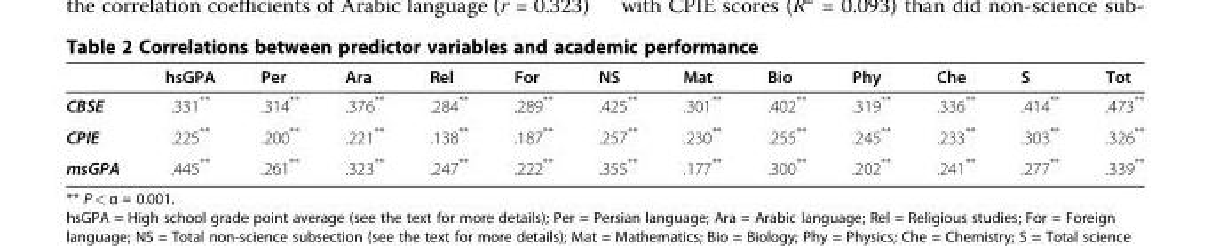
<table><thead><tr><td></td><td>hsGPA</td><td>Per</td><td>Ara</td><td>Rel</td><td>For</td><td>NS</td><td>Mat</td><td>Bio</td><td>Phy</td><td>Che</td><td>S</td><td>Tot</td></tr></thead><tbody><tr><td>CBSE</td><td>.331**</td><td>.314**</td><td>.376**</td><td>.284**</td><td>.289**</td><td>.425**</td><td>.301**</td><td>.402**</td><td>.319**</td><td>.336**</td><td>.414**</td><td>.473**</td></tr><tr><td>CPIE</td><td>.225**</td><td>.200**</td><td>.221**</td><td>.138**</td><td>.187**</td><td>.257**</td><td>.230**</td><td>.255**</td><td>.245**</td><td>.233**</td><td>.303**</td><td>.326**</td></tr><tr><td>msGPA</td><td>.445**</td><td>.261**</td><td>.323**</td><td>.247**</td><td>.222**</td><td>.355**</td><td>.177**</td><td>.300**</td><td>.202**</td><td>.241**</td><td>.277**</td><td>.339**</td></tr></tbody></table>